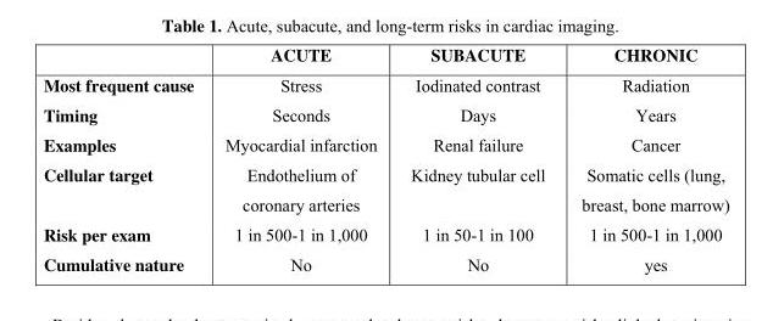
<table><thead><tr><td></td><td>ACUTE</td><td>SUBACUTE</td><td>CHRONIC</td></tr></thead><tbody><tr><td>Most frequent cause</td><td>Stress</td><td>Iodinated contrast</td><td>Radiation</td></tr><tr><td>Timing</td><td>Seconds</td><td>Days</td><td>Years</td></tr><tr><td>Examples</td><td>Myocardial infarction</td><td>Renal failure</td><td>Cancer</td></tr><tr><td>Cellular target</td><td>Endothelium of coronary arteries</td><td>Kidney tubular cell</td><td>Somatic cells (lung, breast, bone marrow)</td></tr><tr><td>Risk per exam</td><td>1 in 500-1 in 1,000</td><td>1 in 50-1 in 100</td><td>1 in 500-1 in 1,000</td></tr><tr><td>Cumulative nature</td><td>No</td><td>No</td><td>yes</td></tr></tbody></table>